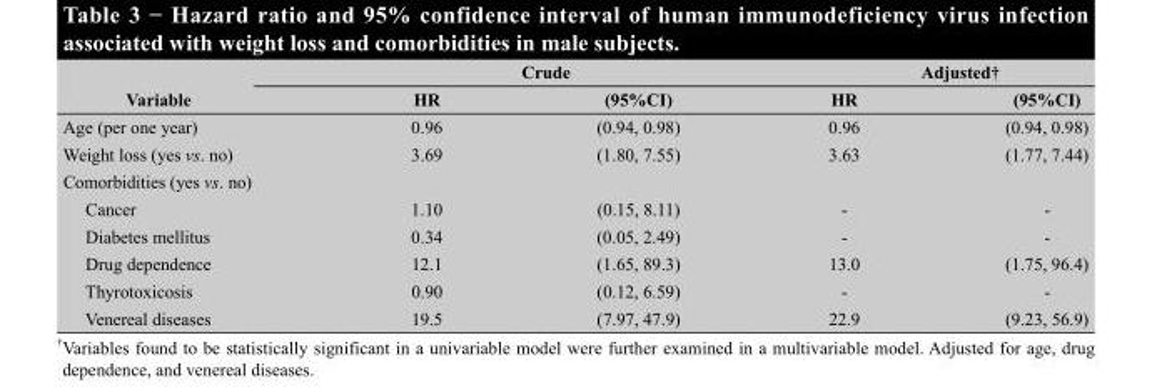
<table><thead><tr><td rowspan="2">Variable</td><td colspan="2">Crude</td><td colspan="2">Adjusted†</td></tr><tr><td>HR</td><td>(95%CI)</td><td>HR</td><td>(95%CI)</td></tr></thead><tbody><tr><td>Age (per one year)</td><td>0.96</td><td>(0.94, 0.98)</td><td>0.96</td><td>(0.94, 0.98)</td></tr><tr><td>Weight loss (yes vs. no)</td><td>3.69</td><td>(1.80, 7.55)</td><td>3.63</td><td>(1.77, 7.44)</td></tr><tr><td colspan="5">Comorbidities (yes vs. no)</td></tr><tr><td>Cancer</td><td>1.10</td><td>(0.15, 8.11)</td><td>-</td><td>-</td></tr><tr><td>Diabetes mellitus</td><td>0.34</td><td>(0.05, 2.49)</td><td>-</td><td>-</td></tr><tr><td>Drug dependence</td><td>12.1</td><td>(1.65, 89.3)</td><td>13.0</td><td>(1.75, 96.4)</td></tr><tr><td>Thyrotoxicosis</td><td>0.90</td><td>(0.12, 6.59)</td><td>-</td><td>-</td></tr><tr><td>Venereal diseases</td><td>19.5</td><td>(7.97, 47.9)</td><td>22.9</td><td>(9.23, 56.9)</td></tr></tbody></table>